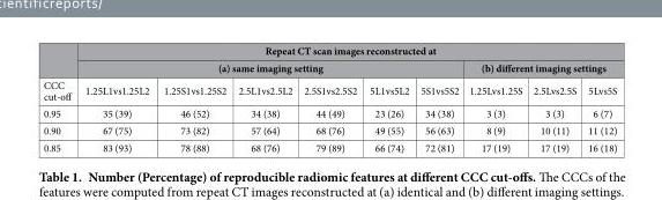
<table><thead><tr><td rowspan="3">CCC cut-off</td><td colspan="9">Repeat CT scan images reconstructed at</td></tr><tr><td colspan="6">(a) same imaging setting</td><td colspan="3">(b) different imaging settings</td></tr><tr><td>1.25L1vs1.25L2</td><td>1.25S1vs1.25S2</td><td>2.5L1vs2.5L2</td><td>2.5S1vs2.5S2</td><td>5L1vs5L2</td><td>5S1vs5S2</td><td>1.25Lvs1.25S</td><td>2.5Lvs2.5S</td><td>5Lvs5S</td></tr></thead><tbody><tr><td>0.95</td><td>35 (39)</td><td>46 (52)</td><td>34 (38)</td><td>44 (49)</td><td>23 (26)</td><td>34 (38)</td><td>3 (3)</td><td>3 (3)</td><td>6 (7)</td></tr><tr><td>0.90</td><td>67 (75)</td><td>73 (82)</td><td>57 (64)</td><td>68 (76)</td><td>49 (55)</td><td>56 (63)</td><td>8 (9)</td><td>10 (11)</td><td>11 (12)</td></tr><tr><td>0.85</td><td>83 (93)</td><td>78 (88)</td><td>68 (76)</td><td>79 (89)</td><td>66 (74)</td><td>72 (81)</td><td>17 (19)</td><td>17 (19)</td><td>16 (18)</td></tr></tbody></table>